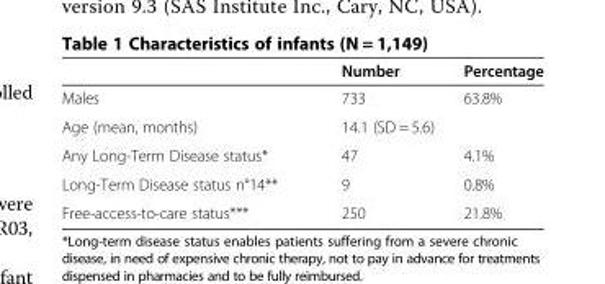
<table><thead><tr><td></td><td>Number</td><td>Percentage</td></tr></thead><tbody><tr><td>Males</td><td>733</td><td>63.8%</td></tr><tr><td>Age (mean, months)</td><td colspan="2">14.1 (SD = 5.6)</td></tr><tr><td>Any Long-Term Disease status*</td><td>47</td><td>4.1%</td></tr><tr><td>Long-Term Disease status n°14**</td><td>9</td><td>0.8%</td></tr><tr><td>Free-access-to-care status***</td><td>250</td><td>21.8%</td></tr></tbody></table>